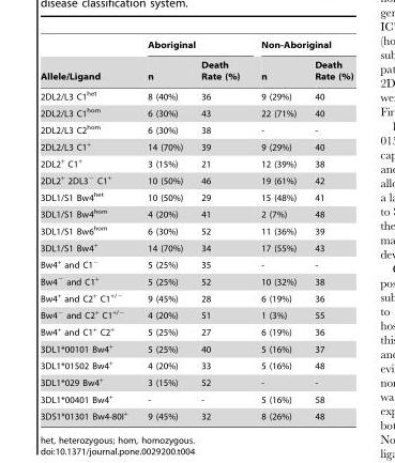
<table><thead><tr><td rowspan="2">Allele/Ligand</td><td colspan="2">Aboriginal</td><td colspan="2">Non-Aboriginal</td></tr><tr><td>n</td><td>Death Rate (%)</td><td>n</td><td>Death Rate (%)</td></tr></thead><tbody><tr><td>2DL2/L3 C1<sup>het</sup></td><td>8 (40%)</td><td>36</td><td>9 (29%)</td><td>40</td></tr><tr><td>2DL2/L3 C1<sup>hom</sup></td><td>6 (30%)</td><td>43</td><td>22 (71%)</td><td>40</td></tr><tr><td>2DL2/L3 C2<sup>hom</sup></td><td>6 (30%)</td><td>38</td><td>-</td><td>-</td></tr><tr><td>2DL2/L3 C1<sup>+</sup></td><td>14 (70%)</td><td>39</td><td>9 (29%)</td><td>40</td></tr><tr><td>2DL2<sup>+</sup> C1<sup>+</sup></td><td>3 (15%)</td><td>21</td><td>12 (39%)</td><td>38</td></tr><tr><td>2DL2<sup>+</sup> 2DL3<sup>−</sup> C1<sup>+</sup></td><td>10 (50%)</td><td>46</td><td>19 (61%)</td><td>42</td></tr><tr><td>3DL1/S1 Bw4<sup>het</sup></td><td>10 (50%)</td><td>29</td><td>15 (48%)</td><td>41</td></tr><tr><td>3DL1/S1 Bw4<sup>hom</sup></td><td>4 (20%)</td><td>41</td><td>2 (7%)</td><td>48</td></tr><tr><td>3DL1/S1 Bw6<sup>hom</sup></td><td>6 (30%)</td><td>52</td><td>11 (36%)</td><td>39</td></tr><tr><td>3DL1/S1 Bw4<sup>+</sup></td><td>14 (70%)</td><td>34</td><td>17 (55%)</td><td>43</td></tr><tr><td>Bw4<sup>+</sup> and C1<sup>−</sup></td><td>5 (25%)</td><td>35</td><td>-</td><td>-</td></tr><tr><td>Bw4<sup>−</sup> and C1<sup>+</sup></td><td>5 (25%)</td><td>52</td><td>10 (32%)</td><td>38</td></tr><tr><td>Bw4<sup>+</sup> and C2<sup>+</sup> C1<sup>+/−</sup></td><td>9 (45%)</td><td>28</td><td>6 (19%)</td><td>36</td></tr><tr><td>Bw4<sup>−</sup> and C2<sup>+</sup> C1<sup>+/−</sup></td><td>4 (20%)</td><td>51</td><td>1 (3%)</td><td>55</td></tr><tr><td>Bw4<sup>+</sup> and C1<sup>+</sup> C2<sup>+</sup></td><td>5 (25%)</td><td>27</td><td>6 (19%)</td><td>36</td></tr><tr><td>3DL1*00101 Bw4<sup>+</sup></td><td>5 (25%)</td><td>40</td><td>5 (16%)</td><td>37</td></tr><tr><td>3DL1*01502 Bw4<sup>+</sup></td><td>4 (20%)</td><td>33</td><td>5 (16%)</td><td>48</td></tr><tr><td>3DL1*029 Bw4<sup>+</sup></td><td>3 (15%)</td><td>52</td><td>-</td><td>-</td></tr><tr><td>3DL1*00401 Bw4<sup>+</sup></td><td>-</td><td>-</td><td>5 (16%)</td><td>58</td></tr><tr><td>3DS1*01301 Bw4-80I<sup>+</sup></td><td>9 (45%)</td><td>32</td><td>8 (26%)</td><td>48</td></tr></tbody></table>